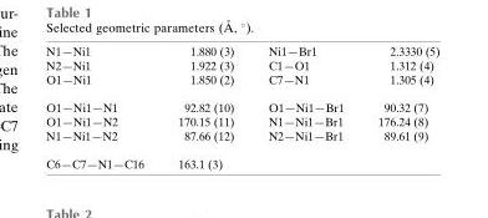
<table><tbody><tr><td>N1—Ni1</td><td>1.880 (3)</td><td>Ni1—Br1</td><td>2.3330 (5)</td></tr><tr><td>N2—Ni1</td><td>1.922 (3)</td><td>C1—O1</td><td>1.312 (4)</td></tr><tr><td>O1—Ni1</td><td>1.850 (2)</td><td>C7—N1</td><td>1.305 (4)</td></tr><tr><td>O1—Ni1—N1</td><td>92.82 (10)</td><td>O1—Ni1—Br1</td><td>90.32 (7)</td></tr><tr><td>O1—Ni1—N2</td><td>170.15 (11)</td><td>N1—Ni1—Br1</td><td>176.24 (8)</td></tr><tr><td>N1—Ni1—N2</td><td>87.66 (12)</td><td>N2—Ni1—Br1</td><td>89.61 (9)</td></tr><tr><td>C6—C7—N1—C16</td><td>163.1 (3)</td><td></td><td></td></tr></tbody></table>